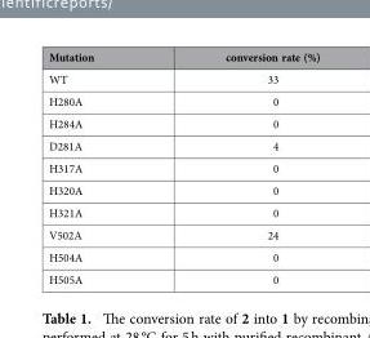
<table><thead><tr><td>Mutation</td><td>conversion rate (%)</td></tr></thead><tbody><tr><td>WT</td><td>33</td></tr><tr><td>H280A</td><td>0</td></tr><tr><td>H284A</td><td>0</td></tr><tr><td>D281A</td><td>4</td></tr><tr><td>H317A</td><td>0</td></tr><tr><td>H320A</td><td>0</td></tr><tr><td>H321A</td><td>0</td></tr><tr><td>V502A</td><td>24</td></tr><tr><td>H504A</td><td>0</td></tr><tr><td>H505A</td><td>0</td></tr></tbody></table>